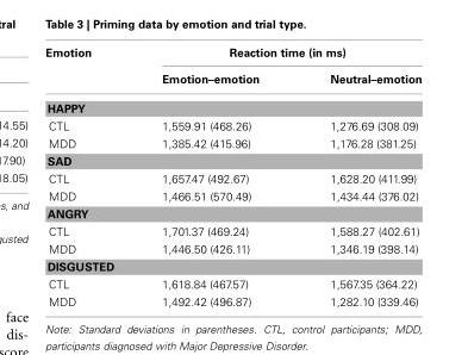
<table><thead><tr><td rowspan="2">Emotion</td><td colspan="2">Reaction time (in ms)</td></tr><tr><td>Emotion–emotion</td><td>Neutral–emotion</td></tr></thead><tbody><tr><td colspan="3">HAPPY</td></tr><tr><td>CTL</td><td>1,559.91 (468.26)</td><td>1,276.69 (308.09)</td></tr><tr><td>MDD</td><td>1,385.42 (415.96)</td><td>1,176.28 (381.25)</td></tr><tr><td colspan="3">SAD</td></tr><tr><td>CTL</td><td>1,657.47 (492.67)</td><td>1,628.20 (411.99)</td></tr><tr><td>MDD</td><td>1,466.51 (570.49)</td><td>1,434.44 (376.02)</td></tr><tr><td colspan="3">ANGRY</td></tr><tr><td>CTL</td><td>1,701.37 (469.24)</td><td>1,588.27 (402.61)</td></tr><tr><td>MDD</td><td>1,446.50 (426.11)</td><td>1,346.19 (398.14)</td></tr><tr><td colspan="3">DISGUSTED</td></tr><tr><td>CTL</td><td>1,618.84 (467.57)</td><td>1,567.35 (364.22)</td></tr><tr><td>MDD</td><td>1,492.42 (496.87)</td><td>1,282.10 (339.46)</td></tr></tbody></table>